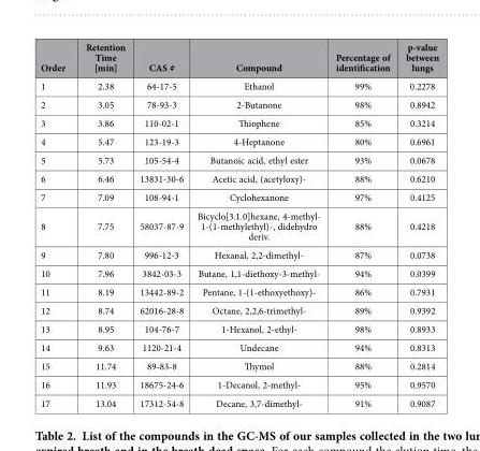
<table><thead><tr><td>Order</td><td>Retention Time [min]</td><td>CAS #</td><td>Compound</td><td>Percentage of identification</td><td>p-value between lungs</td></tr></thead><tbody><tr><td>1</td><td>2.38</td><td>64-17-5</td><td>Ethanol</td><td>99%</td><td>0.2278</td></tr><tr><td>2</td><td>3.05</td><td>78-93-3</td><td>2-Butanone</td><td>98%</td><td>0.8942</td></tr><tr><td>3</td><td>3.86</td><td>110-02-1</td><td>Thiophene</td><td>85%</td><td>0.3214</td></tr><tr><td>4</td><td>5.47</td><td>123-19-3</td><td>4-Heptanone</td><td>80%</td><td>0.6961</td></tr><tr><td>5</td><td>5.73</td><td>105-54-4</td><td>Butanoic acid, ethyl ester</td><td>93%</td><td>0.0678</td></tr><tr><td>6</td><td>6.46</td><td>13831-30-6</td><td>Acetic acid, (acetyloxy)-</td><td>88%</td><td>0.6210</td></tr><tr><td>7</td><td>7.09</td><td>108-94-1</td><td>Cyclohexanone</td><td>97%</td><td>0.4125</td></tr><tr><td>8</td><td>7.75</td><td>58037-87-9</td><td>Bicyclo[3.1.0]hexane, 4-methyl- 1-(1-methylethyl)-, didehydro deriv.</td><td>88%</td><td>0.4218</td></tr><tr><td>9</td><td>7.80</td><td>996-12-3</td><td>Hexanal, 2,2-dimethyl-</td><td>87%</td><td>0.0738</td></tr><tr><td>10</td><td>7.96</td><td>3842-03-3</td><td>Butane, 1,1-diethoxy-3-methyl-</td><td>94%</td><td>0.0399</td></tr><tr><td>11</td><td>8.19</td><td>13442-89-2</td><td>Pentane, 1-(1-ethoxyethoxy)-</td><td>86%</td><td>0.7931</td></tr><tr><td>12</td><td>8.74</td><td>62016-28-8</td><td>Octane, 2,2,6-trimethyl-</td><td>89%</td><td>0.9392</td></tr><tr><td>13</td><td>8.95</td><td>104-76-7</td><td>1-Hexanol, 2-ethyl-</td><td>98%</td><td>0.8933</td></tr><tr><td>14</td><td>9.63</td><td>1120-21-4</td><td>Undecane</td><td>94%</td><td>0.8313</td></tr><tr><td>15</td><td>11.74</td><td>89-83-8</td><td>Thymol</td><td>88%</td><td>0.2814</td></tr><tr><td>16</td><td>11.93</td><td>18675-24-6</td><td>1-Decanol, 2-methyl-</td><td>95%</td><td>0.9570</td></tr><tr><td>17</td><td>13.04</td><td>17312-54-8</td><td>Decane, 3,7-dimethyl-</td><td>91%</td><td>0.9087</td></tr></tbody></table>